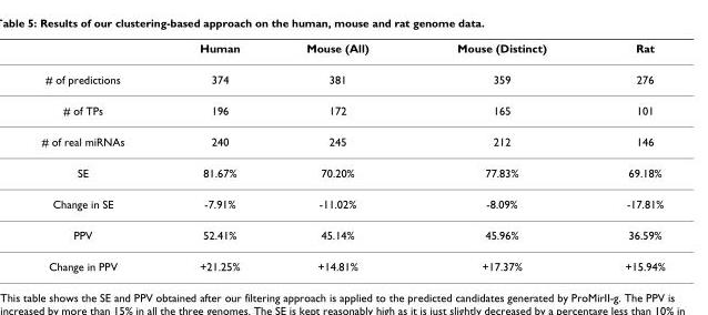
<table><thead><tr><td></td><td>Human</td><td>Mouse (All)</td><td>Mouse (Distinct)</td><td>Rat</td></tr></thead><tbody><tr><td># of predictions</td><td>374</td><td>381</td><td>359</td><td>276</td></tr><tr><td># of TPs</td><td>196</td><td>172</td><td>165</td><td>101</td></tr><tr><td># of real miRNAs</td><td>240</td><td>245</td><td>212</td><td>146</td></tr><tr><td>SE</td><td>81.67%</td><td>70.20%</td><td>77.83%</td><td>69.18%</td></tr><tr><td>Change in SE</td><td>-7.91%</td><td>-11.02%</td><td>-8.09%</td><td>-17.81%</td></tr><tr><td>PPV</td><td>52.41%</td><td>45.14%</td><td>45.96%</td><td>36.59%</td></tr><tr><td>Change in PPV</td><td>+21.25%</td><td>+14.81%</td><td>+17.37%</td><td>+15.94%</td></tr></tbody></table>